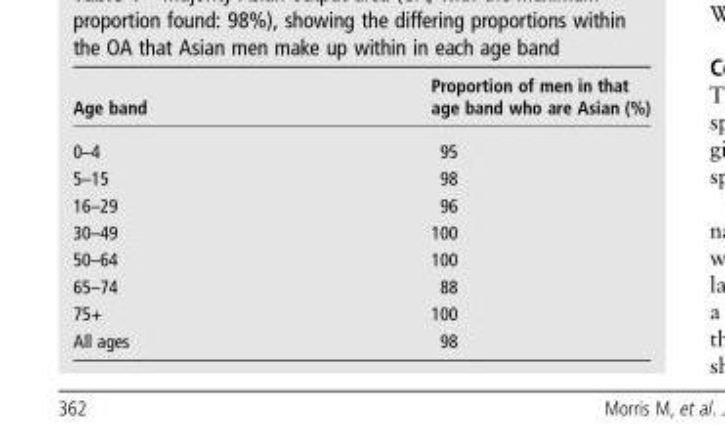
<table><thead><tr><td>Age band</td><td>Proportion of men in that age band who are Asian (%)</td></tr></thead><tbody><tr><td>0–4</td><td>95</td></tr><tr><td>5–15</td><td>98</td></tr><tr><td>16–29</td><td>96</td></tr><tr><td>30–49</td><td>100</td></tr><tr><td>50–64</td><td>100</td></tr><tr><td>65–74</td><td>88</td></tr><tr><td>75+</td><td>100</td></tr><tr><td>All ages</td><td>98</td></tr></tbody></table>